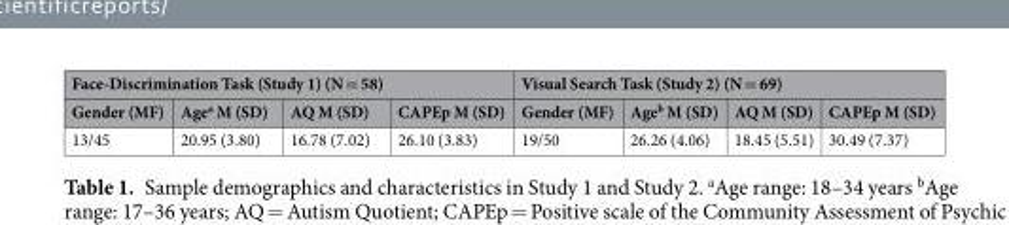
<table><thead><tr><td colspan="4">Face-Discrimination Task (Study 1) (N = 58)</td><td colspan="4">Visual Search Task (Study 2) (N = 69)</td></tr><tr><td>Gender (MF)</td><td>Age<sup>a</sup> M (SD)</td><td>AQ M (SD)</td><td>CAPEp M (SD)</td><td>Gender (MF)</td><td>Age<sup>b</sup> M (SD)</td><td>AQ M (SD)</td><td>CAPEp M (SD)</td></tr></thead><tbody><tr><td>13/45</td><td>20.95 (3.80)</td><td>16.78 (7.02)</td><td>26.10 (3.83)</td><td>19/50</td><td>26.26 (4.06)</td><td>18.45 (5.51)</td><td>30.49 (7.37)</td></tr></tbody></table>